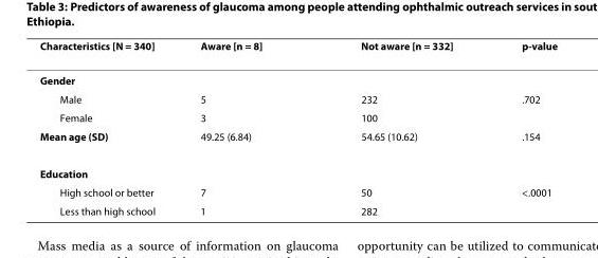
<table><thead><tr><td>Characteristics [N = 340]</td><td>Aware [n = 8]</td><td>Not aware [n = 332]</td><td>p-value</td></tr></thead><tbody><tr><td colspan="4">Gender</td></tr><tr><td>Male</td><td>5</td><td>232</td><td>.702</td></tr><tr><td>Female</td><td>3</td><td>100</td><td></td></tr><tr><td>Mean age (SD)</td><td>49.25 (6.84)</td><td>54.65 (10.62)</td><td>.154</td></tr><tr><td colspan="4">Education</td></tr><tr><td>High school or better</td><td>7</td><td>50</td><td>&lt;.0001</td></tr><tr><td>Less than high school</td><td>1</td><td>282</td><td></td></tr></tbody></table>